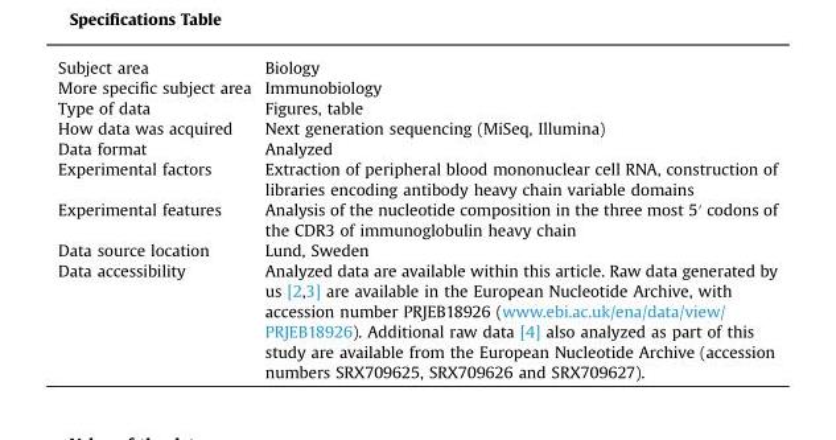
<table><tbody><tr><td>Subject area</td><td>Biology</td></tr><tr><td>More specific subject area</td><td>Immunobiology</td></tr><tr><td>Type of data</td><td>Figures, table</td></tr><tr><td>How data was acquired</td><td>Next generation sequencing (MiSeq, Illumina)</td></tr><tr><td>Data format</td><td>Analyzed</td></tr><tr><td>Experimental factors</td><td>Extraction of peripheral blood mononuclear cell RNA, construction of libraries encoding antibody heavy chain variable domains</td></tr><tr><td>Experimental features</td><td>Analysis of the nucleotide composition in the three most 5′ codons of the CDR3 of immunoglobulin heavy chain</td></tr><tr><td>Data source location</td><td>Lund, Sweden</td></tr><tr><td>Data accessibility</td><td>Analyzed data are available within this article. Raw data generated by us [2,3] are available in the European Nucleotide Archive, with accession number PRJEB18926 (www.ebi.ac.uk/ena/data/view/ PRJEB18926). Additional raw data [4] also analyzed as part of this study are available from the European Nucleotide Archive (accession numbers SRX709625, SRX709626 and SRX709627).</td></tr></tbody></table>